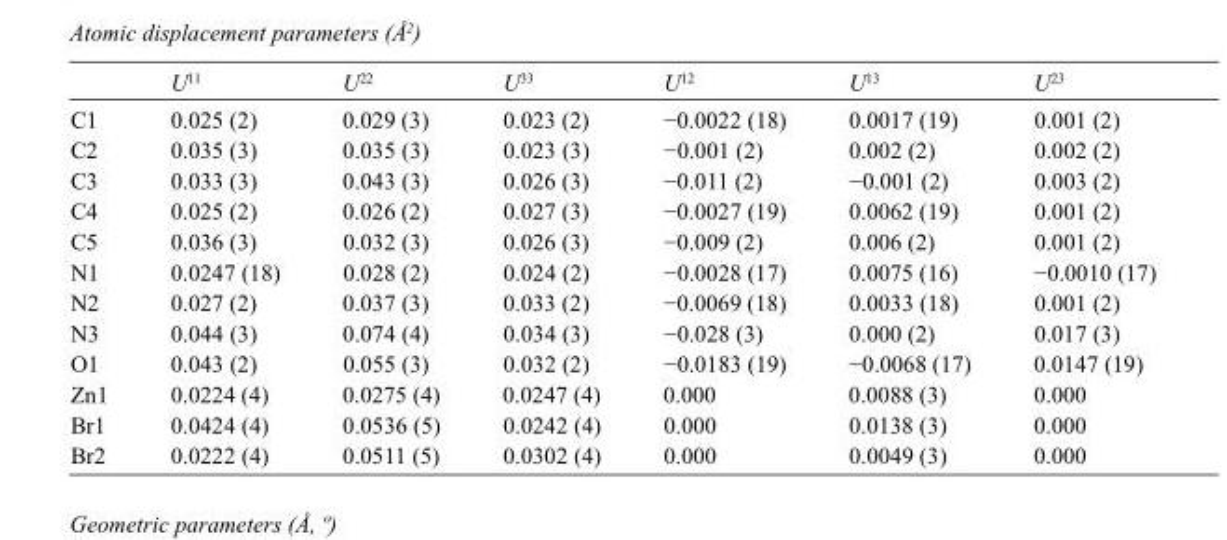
<table><thead><tr><td></td><td>U<sup>11</sup></td><td>U<sup>22</sup></td><td>U<sup>33</sup></td><td>U<sup>12</sup></td><td>U<sup>13</sup></td><td>U<sup>23</sup></td></tr></thead><tbody><tr><td>C1</td><td>0.025 (2)</td><td>0.029 (3)</td><td>0.023 (2)</td><td>−0.0022 (18)</td><td>0.0017 (19)</td><td>0.001 (2)</td></tr><tr><td>C2</td><td>0.035 (3)</td><td>0.035 (3)</td><td>0.023 (3)</td><td>−0.001 (2)</td><td>0.002 (2)</td><td>0.002 (2)</td></tr><tr><td>C3</td><td>0.033 (3)</td><td>0.043 (3)</td><td>0.026 (3)</td><td>−0.011 (2)</td><td>−0.001 (2)</td><td>0.003 (2)</td></tr><tr><td>C4</td><td>0.025 (2)</td><td>0.026 (2)</td><td>0.027 (3)</td><td>−0.0027 (19)</td><td>0.0062 (19)</td><td>0.001 (2)</td></tr><tr><td>C5</td><td>0.036 (3)</td><td>0.032 (3)</td><td>0.026 (3)</td><td>−0.009 (2)</td><td>0.006 (2)</td><td>0.001 (2)</td></tr><tr><td>N1</td><td>0.0247 (18)</td><td>0.028 (2)</td><td>0.024 (2)</td><td>−0.0028 (17)</td><td>0.0075 (16)</td><td>−0.0010 (17)</td></tr><tr><td>N2</td><td>0.027 (2)</td><td>0.037 (3)</td><td>0.033 (2)</td><td>−0.0069 (18)</td><td>0.0033 (18)</td><td>0.001 (2)</td></tr><tr><td>N3</td><td>0.044 (3)</td><td>0.074 (4)</td><td>0.034 (3)</td><td>−0.028 (3)</td><td>0.000 (2)</td><td>0.017 (3)</td></tr><tr><td>O1</td><td>0.043 (2)</td><td>0.055 (3)</td><td>0.032 (2)</td><td>−0.0183 (19)</td><td>−0.0068 (17)</td><td>0.0147 (19)</td></tr><tr><td>Zn1</td><td>0.0224 (4)</td><td>0.0275 (4)</td><td>0.0247 (4)</td><td>0.000</td><td>0.0088 (3)</td><td>0.000</td></tr><tr><td>Br1</td><td>0.0424 (4)</td><td>0.0536 (5)</td><td>0.0242 (4)</td><td>0.000</td><td>0.0138 (3)</td><td>0.000</td></tr><tr><td>Br2</td><td>0.0222 (4)</td><td>0.0511 (5)</td><td>0.0302 (4)</td><td>0.000</td><td>0.0049 (3)</td><td>0.000</td></tr></tbody></table>